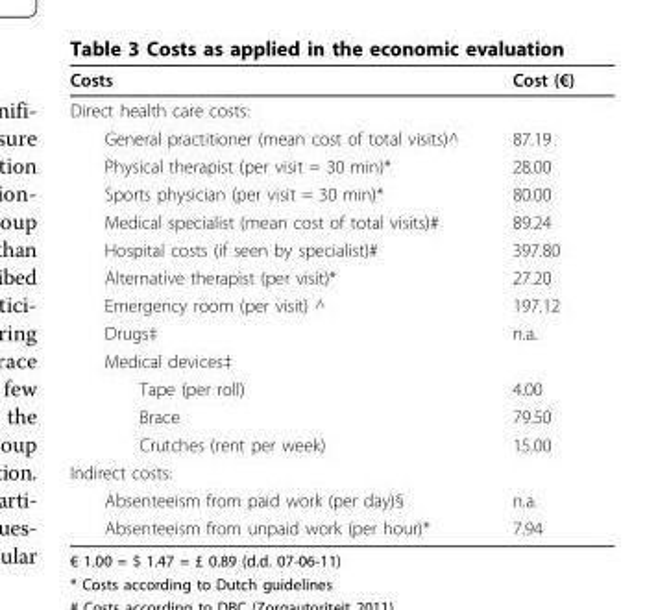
<table><thead><tr><td>Costs</td><td>Cost (€)</td></tr></thead><tbody><tr><td colspan="2">Direct health care costs:</td></tr><tr><td>General practitioner (mean cost of total visits)^</td><td>87.19</td></tr><tr><td>Physical therapist (per visit = 30 min)*</td><td>28.00</td></tr><tr><td>Sports physician (per visit = 30 min)*</td><td>80.00</td></tr><tr><td>Medical specialist (mean cost of total visits)#</td><td>89.24</td></tr><tr><td>Hospital costs (if seen by specialist)#</td><td>397.80</td></tr><tr><td>Alternative therapist (per visit)*</td><td>27.20</td></tr><tr><td>Emergency room (per visit) ^</td><td>197.12</td></tr><tr><td>Drugs‡</td><td>n.a.</td></tr><tr><td colspan="2">Medical devices‡</td></tr><tr><td>Tape (per roll)</td><td>4.00</td></tr><tr><td>Brace</td><td>79.50</td></tr><tr><td>Crutches (rent per week)</td><td>15.00</td></tr><tr><td colspan="2">Indirect costs:</td></tr><tr><td>Absenteeism from paid work (per day)§</td><td>n.a.</td></tr><tr><td>Absenteeism from unpaid work (per hour)*</td><td>7.94</td></tr></tbody></table>